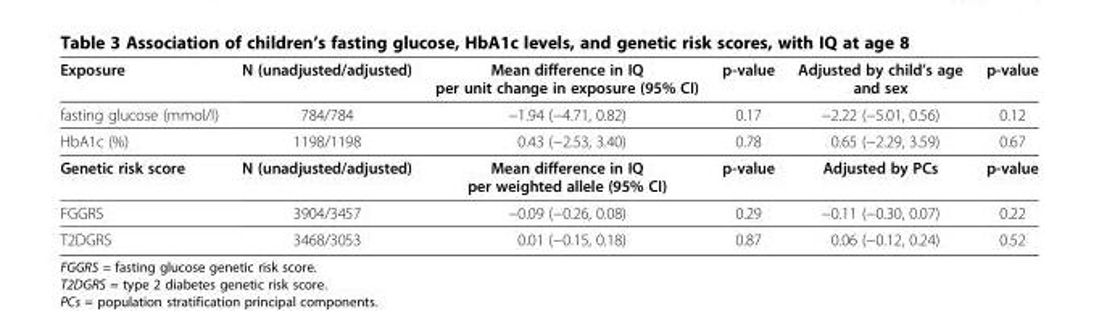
<table><thead><tr><td>Exposure</td><td>N (unadjusted/adjusted)</td><td>Mean difference in IQ per unit change in exposure (95% CI)</td><td>p-value</td><td>Adjusted by child’s age and sex</td><td>p-value</td></tr></thead><tbody><tr><td>fasting glucose (mmol/l)</td><td>784/784</td><td>−1.94 (−4.71, 0.82)</td><td>0.17</td><td>−2.22 (−5.01, 0.56)</td><td>0.12</td></tr><tr><td>HbA1c (%)</td><td>1198/1198</td><td>0.43 (−2.53, 3.40)</td><td>0.78</td><td>0.65 (−2.29, 3.59)</td><td>0.67</td></tr><tr><td>Genetic risk score</td><td>N (unadjusted/adjusted)</td><td>Mean difference in IQ per weighted allele (95% CI)</td><td>p-value</td><td>Adjusted by PCs</td><td>p-value</td></tr><tr><td>FGGRS</td><td>3904/3457</td><td>−0.09 (−0.26, 0.08)</td><td>0.29</td><td>−0.11 (−0.30, 0.07)</td><td>0.22</td></tr><tr><td>T2DGRS</td><td>3468/3053</td><td>0.01 (−0.15, 0.18)</td><td>0.87</td><td>0.06 (−0.12, 0.24)</td><td>0.52</td></tr></tbody></table>